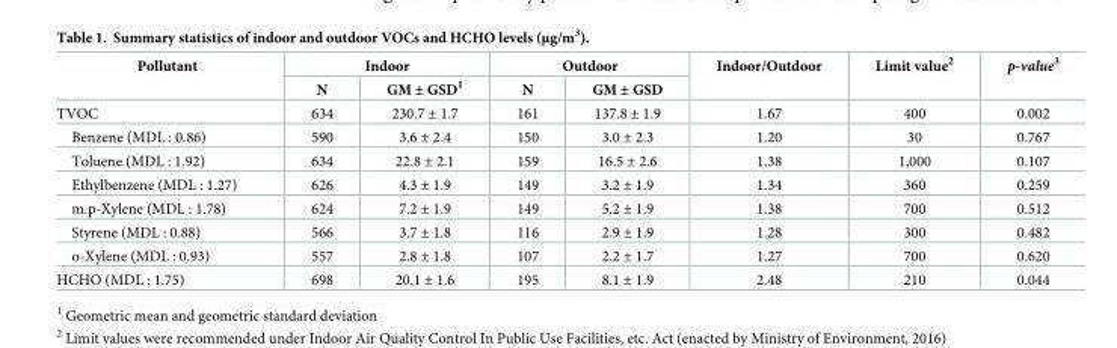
<table><thead><tr><td rowspan="2">Pollutant</td><td colspan="2">Indoor</td><td colspan="2">Outdoor</td><td rowspan="2">Indoor/Outdoor</td><td rowspan="2">Limit value<sup>2</sup></td><td rowspan="2">p-value<sup>3</sup></td></tr><tr><td>N</td><td>GM ± GSD<sup>1</sup></td><td>N</td><td>GM ± GSD</td></tr></thead><tbody><tr><td>TVOC</td><td>634</td><td>230.7 ± 1.7</td><td>161</td><td>137.8 ± 1.9</td><td>1.67</td><td>400</td><td>0.002</td></tr><tr><td>Benzene (MDL : 0.86)</td><td>590</td><td>3.6 ± 2.4</td><td>150</td><td>3.0 ± 2.3</td><td>1.20</td><td>30</td><td>0.767</td></tr><tr><td>Toluene (MDL : 1.92)</td><td>634</td><td>22.8 ± 2.1</td><td>159</td><td>16.5 ± 2.6</td><td>1.38</td><td>1,000</td><td>0.107</td></tr><tr><td>Ethylbenzene (MDL : 1.27)</td><td>626</td><td>4.3 ± 1.9</td><td>149</td><td>3.2 ± 1.9</td><td>1.34</td><td>360</td><td>0.259</td></tr><tr><td>m.p-Xylene (MDL : 1.78)</td><td>624</td><td>7.2 ± 1.9</td><td>149</td><td>5.2 ± 1.9</td><td>1.38</td><td>700</td><td>0.512</td></tr><tr><td>Styrene (MDL : 0.88)</td><td>566</td><td>3.7 ± 1.8</td><td>116</td><td>2.9 ± 1.9</td><td>1.28</td><td>300</td><td>0.482</td></tr><tr><td>o-Xylene (MDL : 0.93)</td><td>557</td><td>2.8 ± 1.8</td><td>107</td><td>2.2 ± 1.7</td><td>1.27</td><td>700</td><td>0.620</td></tr><tr><td>HCHO (MDL : 1.75)</td><td>698</td><td>20.1 ± 1.6</td><td>195</td><td>8.1 ± 1.9</td><td>2.48</td><td>210</td><td>0.044</td></tr></tbody></table>